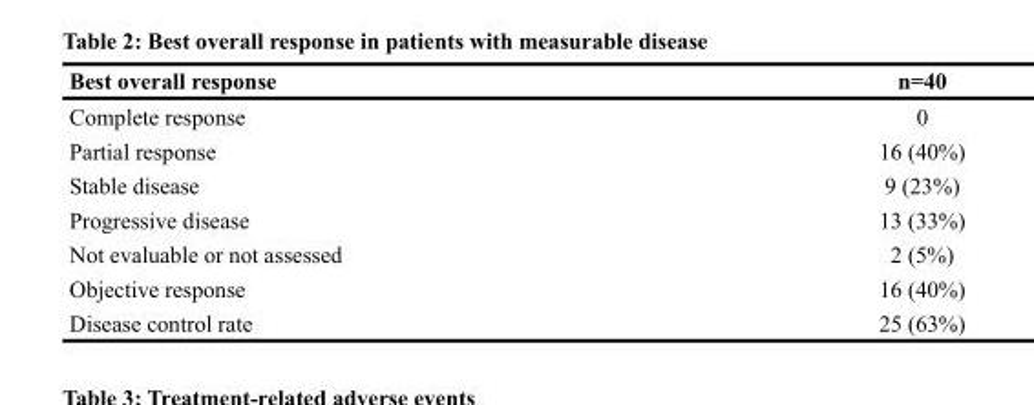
<table><thead><tr><td>Best overall response</td><td>n=40</td></tr></thead><tbody><tr><td>Complete response</td><td>0</td></tr><tr><td>Partial response</td><td>16 (40%)</td></tr><tr><td>Stable disease</td><td>9 (23%)</td></tr><tr><td>Progressive disease</td><td>13 (33%)</td></tr><tr><td>Not evaluable or not assessed</td><td>2 (5%)</td></tr><tr><td>Objective response</td><td>16 (40%)</td></tr><tr><td>Disease control rate</td><td>25 (63%)</td></tr></tbody></table>